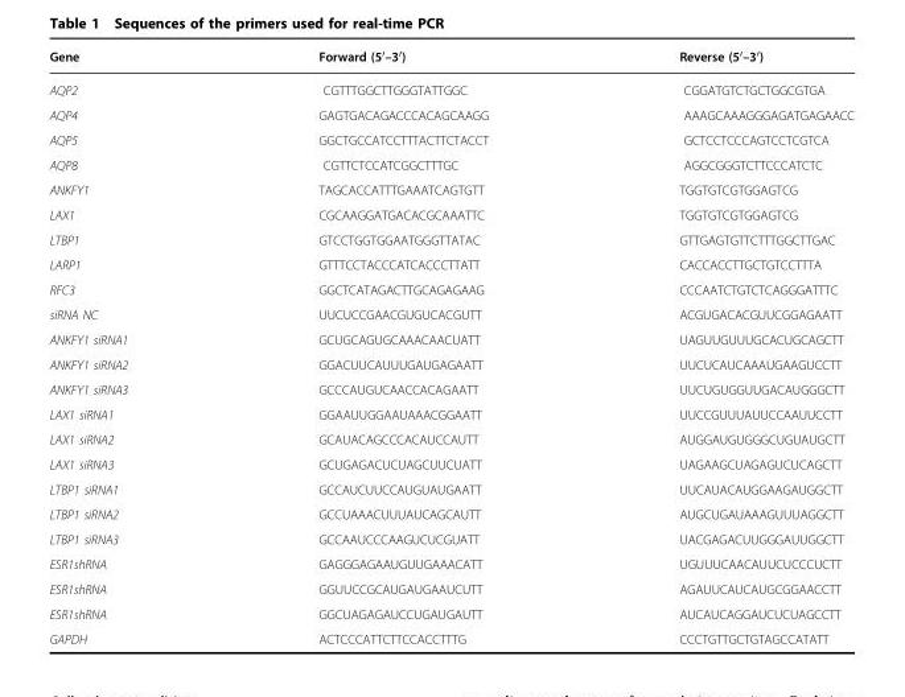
<table><thead><tr><td>Gene</td><td>Forward (5′–3′)</td><td>Reverse (5′–3′)</td></tr></thead><tbody><tr><td>AQP2</td><td>CGTTTGGCTTGGGTATTGGC</td><td>CGGATGTCTGCTGGCGTGA</td></tr><tr><td>AQP4</td><td>GAGTGACAGACCCACAGCAAGG</td><td>AAAGCAAAGGGAGATGAGAACC</td></tr><tr><td>AQP5</td><td>GGCTGCCATCCTTTACTTCTACCT</td><td>GCTCCTCCCAGTCCTCGTCA</td></tr><tr><td>AQP8</td><td>CGTTCTCCATCGGCTTTGC</td><td>AGGCGGGTCTTCCCATCTC</td></tr><tr><td>ANKFY1</td><td>TAGCACCATTTGAAATCAGTGTT</td><td>TGGTGTCGTGGAGTCG</td></tr><tr><td>LAX1</td><td>CGCAAGGATGACACGCAAATTC</td><td>TGGTGTCGTGGAGTCG</td></tr><tr><td>LTBP1</td><td>GTCCTGGTGGAATGGGTTATAC</td><td>GTTGAGTGTTCTTTGGCTTGAC</td></tr><tr><td>LARP1</td><td>GTTTCCTACCCATCACCCTTATT</td><td>CACCACCTTGCTGTCCTTTA</td></tr><tr><td>RFC3</td><td>GGCTCATAGACTTGCAGAGAAG</td><td>CCCAATCTGTCTCAGGGATTTC</td></tr><tr><td>siRNA NC</td><td>UUCUCCGAACGUGUCACGUTT</td><td>ACGUGACACGUUCGGAGAATT</td></tr><tr><td>ANKFY1 siRNA1</td><td>GCUGCAGUGCAAACAACUATT</td><td>UAGUUGUUUGCACUGCAGCTT</td></tr><tr><td>ANKFY1 siRNA2</td><td>GGACUUCAUUUGAUGAGAATT</td><td>UUCUCAUCAAAUGAAGUCCTT</td></tr><tr><td>ANKFY1 siRNA3</td><td>GCCCAUGUCAACCACAGAATT</td><td>UUCUGUGGUUGACAUGGGCTT</td></tr><tr><td>LAX1 siRNA1</td><td>GGAAUUGGAAUAAACGGAATT</td><td>UUCCGUUUAUUCCAAUUCCTT</td></tr><tr><td>LAX1 siRNA2</td><td>GCAUACAGCCCACAUCCAUTT</td><td>AUGGAUGUGGGCUGUAUGCTT</td></tr><tr><td>LAX1 siRNA3</td><td>GCUGAGACUCUAGCUUCUATT</td><td>UAGAAGCUAGAGUCUCAGCTT</td></tr><tr><td>LTBP1 siRNA1</td><td>GCCAUCUUCCAUGUAUGAATT</td><td>UUCAUACAUGGAAGAUGGCTT</td></tr><tr><td>LTBP1 siRNA2</td><td>GCCUAAACUUUAUCAGCAUTT</td><td>AUGCUGAUAAAGUUUAGGCTT</td></tr><tr><td>LTBP1 siRNA3</td><td>GCCAAUCCCAAGUCUCGUATT</td><td>UACGAGACUUGGGAUUGGCTT</td></tr><tr><td>ESR1shRNA</td><td>GAGGGAGAAUGUUGAAACATT</td><td>UGUUUCAACAUUCUCCCUCTT</td></tr><tr><td>ESR1shRNA</td><td>GGUUCCGCAUGAUGAAUCUTT</td><td>AGAUUCAUCAUGCGGAACCTT</td></tr><tr><td>ESR1shRNA</td><td>GGCUAGAGAUCCUGAUGAUTT</td><td>AUCAUCAGGAUCUCUAGCCTT</td></tr><tr><td>GAPDH</td><td>ACTCCCATTCTTCCACCTTTG</td><td>CCCTGTTGCTGTAGCCATATT</td></tr></tbody></table>